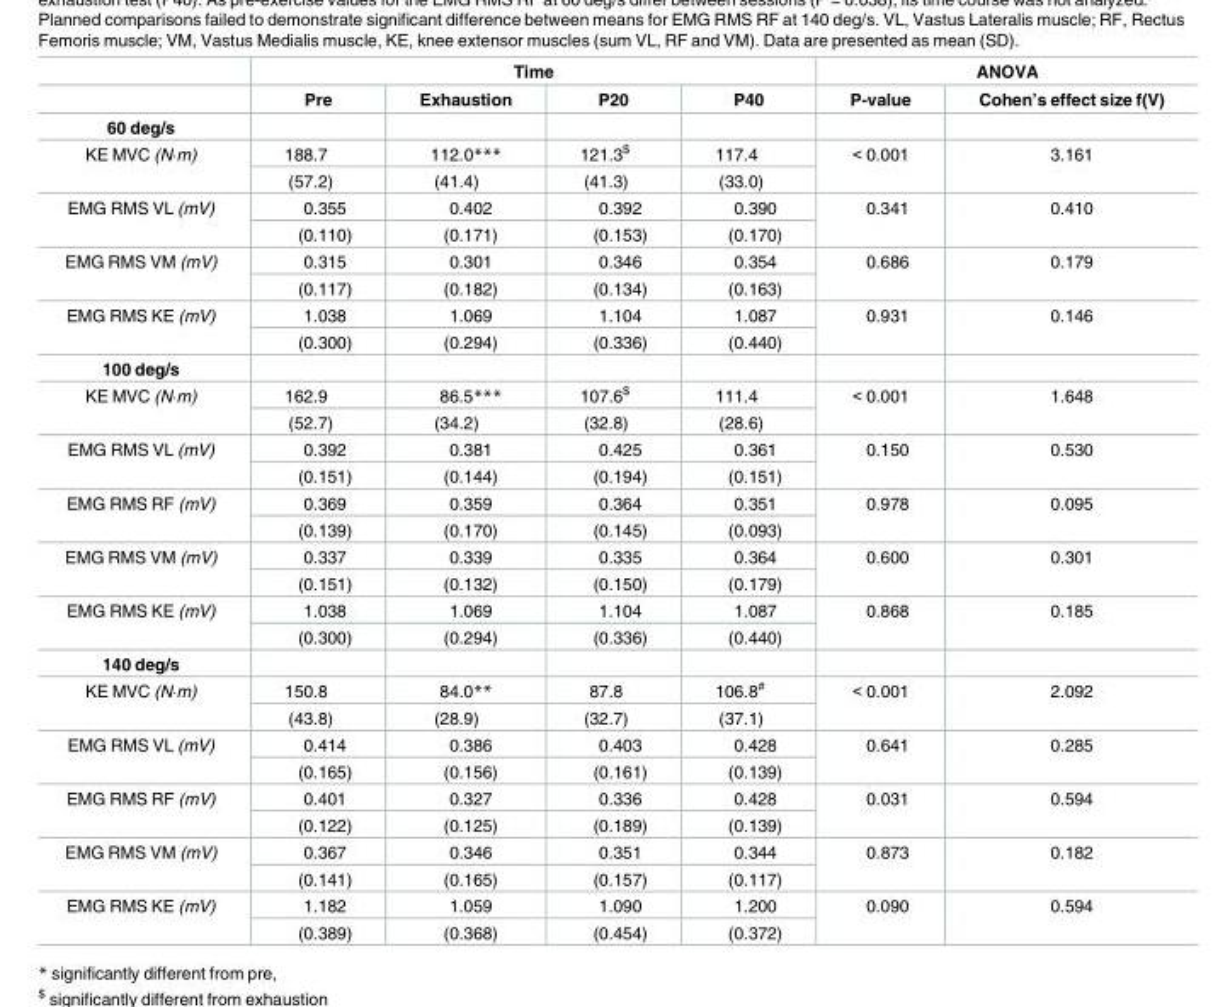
<table><thead><tr><td rowspan="2"></td><td colspan="4">Time</td><td colspan="2">ANOVA</td></tr><tr><td>Pre</td><td>Exhaustion</td><td>P20</td><td>P40</td><td>P-value</td><td>Cohen’s effect size f(V)</td></tr></thead><tbody><tr><td colspan="7">60 deg/s</td></tr><tr><td rowspan="2">KE MVC (N·m)</td><td>188.7</td><td>112.0***</td><td>121.3<sup>$</sup></td><td>117.4</td><td rowspan="2">&lt; 0.001</td><td rowspan="2">3.161</td></tr><tr><td>(57.2)</td><td>(41.4)</td><td>(41.3)</td><td>(33.0)</td></tr><tr><td rowspan="2">EMG RMS VL (mV)</td><td>0.355</td><td>0.402</td><td>0.392</td><td>0.390</td><td rowspan="2">0.341</td><td rowspan="2">0.410</td></tr><tr><td>(0.110)</td><td>(0.171)</td><td>(0.153)</td><td>(0.170)</td></tr><tr><td rowspan="2">EMG RMS VM (mV)</td><td>0.315</td><td>0.301</td><td>0.346</td><td>0.354</td><td rowspan="2">0.686</td><td rowspan="2">0.179</td></tr><tr><td>(0.117)</td><td>(0.182)</td><td>(0.134)</td><td>(0.163)</td></tr><tr><td rowspan="2">EMG RMS KE (mV)</td><td>1.038</td><td>1.069</td><td>1.104</td><td>1.087</td><td rowspan="2">0.931</td><td rowspan="2">0.146</td></tr><tr><td>(0.300)</td><td>(0.294)</td><td>(0.336)</td><td>(0.440)</td></tr><tr><td colspan="7">100 deg/s</td></tr><tr><td rowspan="2">KE MVC (N·m)</td><td>162.9</td><td>86.5***</td><td>107.6<sup>$</sup></td><td>111.4</td><td rowspan="2">&lt; 0.001</td><td rowspan="2">1.648</td></tr><tr><td>(52.7)</td><td>(34.2)</td><td>(32.8)</td><td>(28.6)</td></tr><tr><td rowspan="2">EMG RMS VL (mV)</td><td>0.392</td><td>0.381</td><td>0.425</td><td>0.361</td><td rowspan="2">0.150</td><td rowspan="2">0.530</td></tr><tr><td>(0.151)</td><td>(0.144)</td><td>(0.194)</td><td>(0.151)</td></tr><tr><td rowspan="2">EMG RMS RF (mV)</td><td>0.369</td><td>0.359</td><td>0.364</td><td>0.351</td><td rowspan="2">0.978</td><td rowspan="2">0.095</td></tr><tr><td>(0.139)</td><td>(0.170)</td><td>(0.145)</td><td>(0.093)</td></tr><tr><td rowspan="2">EMG RMS VM (mV)</td><td>0.337</td><td>0.339</td><td>0.335</td><td>0.364</td><td rowspan="2">0.600</td><td rowspan="2">0.301</td></tr><tr><td>(0.151)</td><td>(0.132)</td><td>(0.150)</td><td>(0.179)</td></tr><tr><td rowspan="2">EMG RMS KE (mV)</td><td>1.038</td><td>1.069</td><td>1.104</td><td>1.087</td><td rowspan="2">0.868</td><td rowspan="2">0.185</td></tr><tr><td>(0.300)</td><td>(0.294)</td><td>(0.336)</td><td>(0.440)</td></tr><tr><td colspan="7">140 deg/s</td></tr><tr><td rowspan="2">KE MVC (N·m)</td><td>150.8</td><td>84.0**</td><td>87.8</td><td>106.8<sup>#</sup></td><td rowspan="2">&lt; 0.001</td><td rowspan="2">2.092</td></tr><tr><td>(43.8)</td><td>(28.9)</td><td>(32.7)</td><td>(37.1)</td></tr><tr><td rowspan="2">EMG RMS VL (mV)</td><td>0.414</td><td>0.386</td><td>0.403</td><td>0.428</td><td rowspan="2">0.641</td><td rowspan="2">0.285</td></tr><tr><td>(0.165)</td><td>(0.156)</td><td>(0.161)</td><td>(0.139)</td></tr><tr><td rowspan="2">EMG RMS RF (mV)</td><td>0.401</td><td>0.327</td><td>0.336</td><td>0.428</td><td rowspan="2">0.031</td><td rowspan="2">0.594</td></tr><tr><td>(0.122)</td><td>(0.125)</td><td>(0.189)</td><td>(0.139)</td></tr><tr><td rowspan="2">EMG RMS VM (mV)</td><td>0.367</td><td>0.346</td><td>0.351</td><td>0.344</td><td rowspan="2">0.873</td><td rowspan="2">0.182</td></tr><tr><td>(0.141)</td><td>(0.165)</td><td>(0.157)</td><td>(0.117)</td></tr><tr><td rowspan="2">EMG RMS KE (mV)</td><td>1.182</td><td>1.059</td><td>1.090</td><td>1.200</td><td rowspan="2">0.090</td><td rowspan="2">0.594</td></tr><tr><td>(0.389)</td><td>(0.368)</td><td>(0.454)</td><td>(0.372)</td></tr></tbody></table>